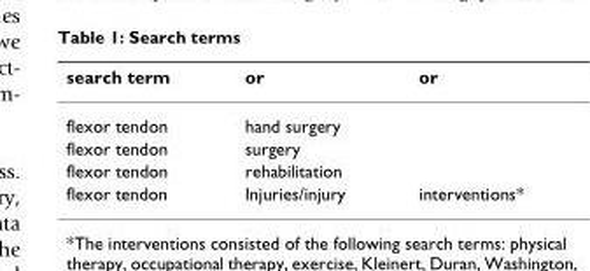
<table><thead><tr><td>search term</td><td>or</td><td>or</td></tr></thead><tbody><tr><td>flexor tendon</td><td>hand surgery</td><td></td></tr><tr><td>flexor tendon</td><td>surgery</td><td></td></tr><tr><td>flexor tendon</td><td>rehabilitation</td><td></td></tr><tr><td>flexor tendon</td><td>Injuries/injury</td><td>interventions*</td></tr></tbody></table>